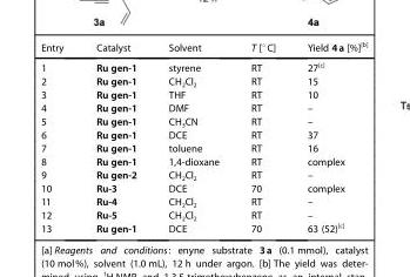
<table><thead><tr><td>Entry</td><td>Catalyst</td><td>Solvent</td><td>T [°C]</td><td>Yield 4a [%][b]</td></tr></thead><tbody><tr><td>1</td><td>Ru gen-1</td><td>styrene</td><td>RT</td><td>27[c]</td></tr><tr><td>2</td><td>Ru gen-1</td><td>CH<sub>2</sub>Cl<sub>2</sub></td><td>RT</td><td>15</td></tr><tr><td>3</td><td>Ru gen-1</td><td>THF</td><td>RT</td><td>10</td></tr><tr><td>4</td><td>Ru gen-1</td><td>DMF</td><td>RT</td><td>–</td></tr><tr><td>5</td><td>Ru gen-1</td><td>CH<sub>3</sub>CN</td><td>RT</td><td>–</td></tr><tr><td>6</td><td>Ru gen-1</td><td>DCE</td><td>RT</td><td>37</td></tr><tr><td>7</td><td>Ru gen-1</td><td>toluene</td><td>RT</td><td>16</td></tr><tr><td>8</td><td>Ru gen-1</td><td>1,4-dioxane</td><td>RT</td><td>complex</td></tr><tr><td>9</td><td>Ru gen-2</td><td>CH<sub>2</sub>Cl<sub>2</sub></td><td>RT</td><td>–</td></tr><tr><td>10</td><td>Ru-3</td><td>DCE</td><td>70</td><td>complex</td></tr><tr><td>11</td><td>Ru-4</td><td>CH<sub>2</sub>Cl<sub>2</sub></td><td>RT</td><td>–</td></tr><tr><td>12</td><td>Ru-5</td><td>CH<sub>2</sub>Cl<sub>2</sub></td><td>RT</td><td>–</td></tr><tr><td>13</td><td>Ru gen-1</td><td>DCE</td><td>70</td><td>63 (52)[c]</td></tr></tbody></table>